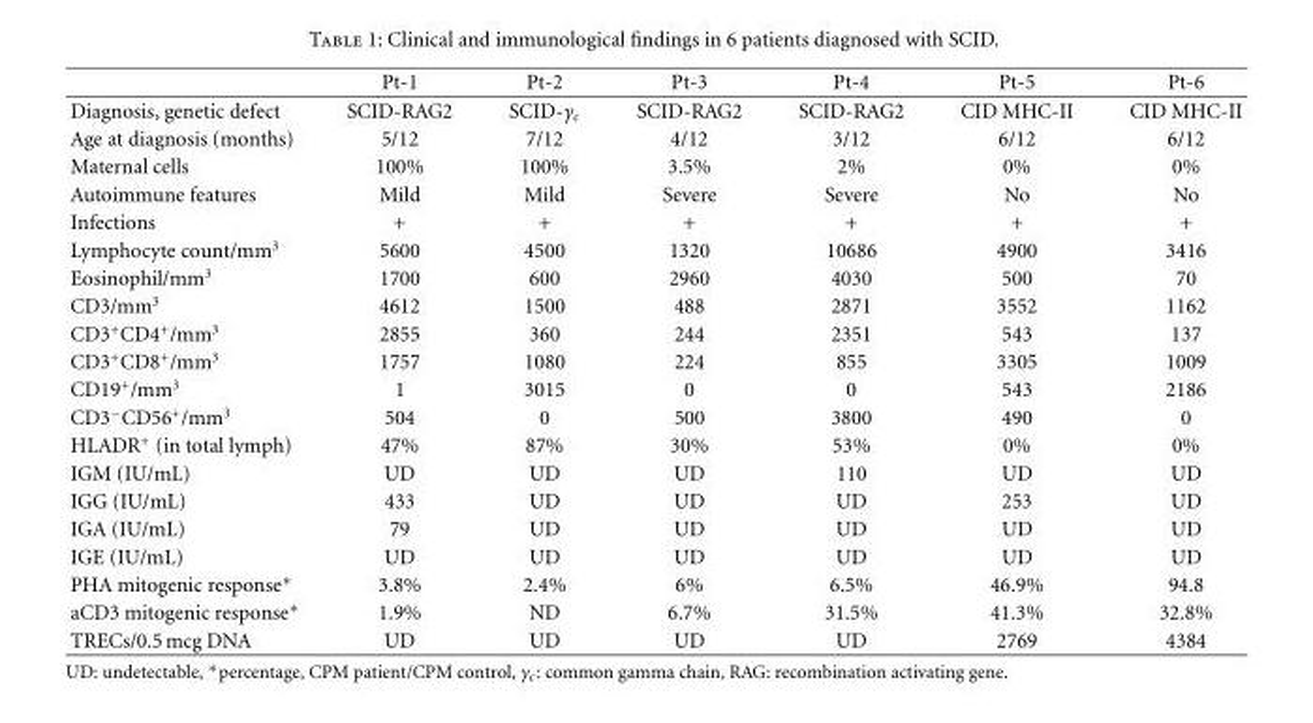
<table><thead><tr><td></td><td>Pt-1</td><td>Pt-2</td><td>Pt-3</td><td>Pt-4</td><td>Pt-5</td><td>Pt-6</td></tr></thead><tbody><tr><td>Diagnosis, genetic defect</td><td>SCID-RAG2</td><td>SCID-γ<sub>c</sub></td><td>SCID-RAG2</td><td>SCID-RAG2</td><td>CID MHC-II</td><td>CID MHC-II</td></tr><tr><td>Age at diagnosis (months)</td><td>5/12</td><td>7/12</td><td>4/12</td><td>3/12</td><td>6/12</td><td>6/12</td></tr><tr><td>Maternal cells</td><td>100%</td><td>100%</td><td>3.5%</td><td>2%</td><td>0%</td><td>0%</td></tr><tr><td>Autoimmune features</td><td>Mild</td><td>Mild</td><td>Severe</td><td>Severe</td><td>No</td><td>No</td></tr><tr><td>Infections</td><td>+</td><td>+</td><td>+</td><td>+</td><td>+</td><td>+</td></tr><tr><td>Lymphocyte count/mm<sup>3</sup></td><td>5600</td><td>4500</td><td>1320</td><td>10686</td><td>4900</td><td>3416</td></tr><tr><td>Eosinophil/mm<sup>3</sup></td><td>1700</td><td>600</td><td>2960</td><td>4030</td><td>500</td><td>70</td></tr><tr><td>CD3/mm<sup>3</sup></td><td>4612</td><td>1500</td><td>488</td><td>2871</td><td>3552</td><td>1162</td></tr><tr><td>CD3<sup>+</sup>CD4<sup>+</sup>/mm<sup>3</sup></td><td>2855</td><td>360</td><td>244</td><td>2351</td><td>543</td><td>137</td></tr><tr><td>CD3<sup>+</sup>CD8<sup>+</sup>/mm<sup>3</sup></td><td>1757</td><td>1080</td><td>224</td><td>855</td><td>3305</td><td>1009</td></tr><tr><td>CD19<sup>+</sup>/mm<sup>3</sup></td><td>1</td><td>3015</td><td>0</td><td>0</td><td>543</td><td>2186</td></tr><tr><td>CD3<sup>−</sup>CD56<sup>+</sup>/mm<sup>3</sup></td><td>504</td><td>0</td><td>500</td><td>3800</td><td>490</td><td>0</td></tr><tr><td>HLADR<sup>+</sup> (in total lymph)</td><td>47%</td><td>87%</td><td>30%</td><td>53%</td><td>0%</td><td>0%</td></tr><tr><td>IGM (IU/mL)</td><td>UD</td><td>UD</td><td>UD</td><td>110</td><td>UD</td><td>UD</td></tr><tr><td>IGG (IU/mL)</td><td>433</td><td>UD</td><td>UD</td><td>UD</td><td>253</td><td>UD</td></tr><tr><td>IGA (IU/mL)</td><td>79</td><td>UD</td><td>UD</td><td>UD</td><td>UD</td><td>UD</td></tr><tr><td>IGE (IU/mL)</td><td>UD</td><td>UD</td><td>UD</td><td>UD</td><td>UD</td><td>UD</td></tr><tr><td>PHA mitogenic response∗</td><td>3.8%</td><td>2.4%</td><td>6%</td><td>6.5%</td><td>46.9%</td><td>94.8</td></tr><tr><td>aCD3 mitogenic response∗</td><td>1.9%</td><td>ND</td><td>6.7%</td><td>31.5%</td><td>41.3%</td><td>32.8%</td></tr><tr><td>TRECs/0.5 mcg DNA</td><td>UD</td><td>UD</td><td>UD</td><td>UD</td><td>2769</td><td>4384</td></tr></tbody></table>